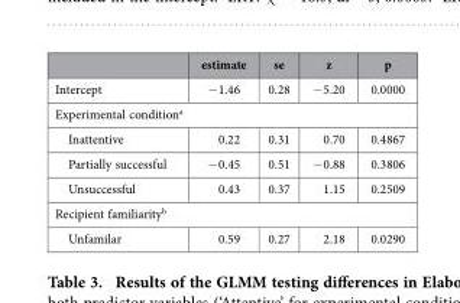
<table><thead><tr><td></td><td>estimate</td><td>se</td><td>z</td><td>p</td></tr></thead><tbody><tr><td>Intercept</td><td>− 1.46</td><td>0.28</td><td>− 5.20</td><td>0.0000</td></tr><tr><td colspan="5">Experimental condition<sup>a</sup></td></tr><tr><td>Inattentive</td><td>0.22</td><td>0.31</td><td>0.70</td><td>0.4867</td></tr><tr><td>Partially successful</td><td>− 0.45</td><td>0.51</td><td>− 0.88</td><td>0.3806</td></tr><tr><td>Unsuccessful</td><td>0.43</td><td>0.37</td><td>1.15</td><td>0.2509</td></tr><tr><td colspan="5">Recipient familiarity<sup>b</sup></td></tr><tr><td>Unfamilar</td><td>0.59</td><td>0.27</td><td>2.18</td><td>0.0290</td></tr></tbody></table>